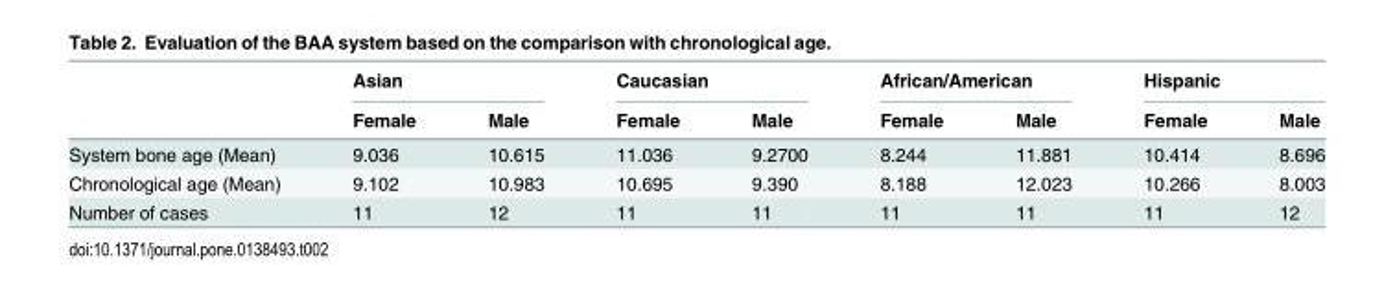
<table><thead><tr><td rowspan="2"></td><td colspan="2">Asian</td><td colspan="2">Caucasian</td><td colspan="2">African/American</td><td colspan="2">Hispanic</td></tr><tr><td>Female</td><td>Male</td><td>Female</td><td>Male</td><td>Female</td><td>Male</td><td>Female</td><td>Male</td></tr></thead><tbody><tr><td>System bone age (Mean)</td><td>9.036</td><td>10.615</td><td>11.036</td><td>9.2700</td><td>8.244</td><td>11.881</td><td>10.414</td><td>8.696</td></tr><tr><td>Chronological age (Mean)</td><td>9.102</td><td>10.983</td><td>10.695</td><td>9.390</td><td>8.188</td><td>12.023</td><td>10.266</td><td>8.003</td></tr><tr><td>Number of cases</td><td>11</td><td>12</td><td>11</td><td>11</td><td>11</td><td>11</td><td>11</td><td>12</td></tr></tbody></table>